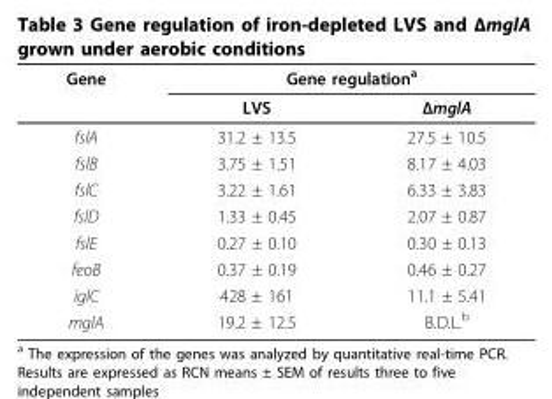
<table><thead><tr><td rowspan="2">Gene</td><td colspan="2">Gene regulation<sup>a</sup></td></tr><tr><td>LVS</td><td>ΔmglA</td></tr></thead><tbody><tr><td>fslA</td><td>31.2 ± 13.5</td><td>27.5 ± 10.5</td></tr><tr><td>fslB</td><td>3.75 ± 1.51</td><td>8.17 ± 4.03</td></tr><tr><td>fslC</td><td>3.22 ± 1.61</td><td>6.33 ± 3.83</td></tr><tr><td>fslD</td><td>1.33 ± 0.45</td><td>2.07 ± 0.87</td></tr><tr><td>fslE</td><td>0.27 ± 0.10</td><td>0.30 ± 0.13</td></tr><tr><td>feoB</td><td>0.37 ± 0.19</td><td>0.46 ± 0.27</td></tr><tr><td>iglC</td><td>428 ± 161</td><td>11.1 ± 5.41</td></tr><tr><td>mglA</td><td>19.2 ± 12.5</td><td>B.D.L.<sup>b</sup></td></tr></tbody></table>